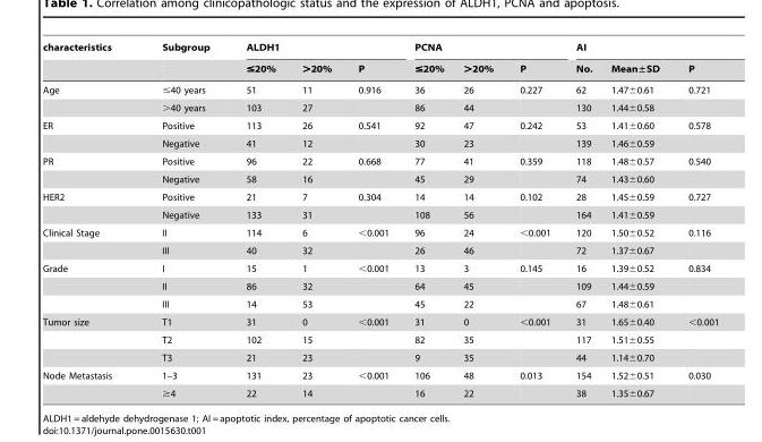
<table><thead><tr><td rowspan="2">characteristics</td><td rowspan="2">Subgroup</td><td colspan="3">ALDH1</td><td colspan="3">PCNA</td><td colspan="3">AI</td></tr><tr><td>≤20%</td><td>&gt;20%</td><td>P</td><td>≤20%</td><td>&gt;20%</td><td>P</td><td>No.</td><td>Mean±SD</td><td>P</td></tr></thead><tbody><tr><td rowspan="2">Age</td><td>≤40 years</td><td>51</td><td>11</td><td>0.916</td><td>36</td><td>26</td><td>0.227</td><td>62</td><td>1.47±0.61</td><td>0.721</td></tr><tr><td>&gt;40 years</td><td>103</td><td>27</td><td></td><td>86</td><td>44</td><td></td><td>130</td><td>1.44±0.58</td><td></td></tr><tr><td rowspan="2">ER</td><td>Positive</td><td>113</td><td>26</td><td>0.541</td><td>92</td><td>47</td><td>0.242</td><td>53</td><td>1.41±0.60</td><td>0.578</td></tr><tr><td>Negative</td><td>41</td><td>12</td><td></td><td>30</td><td>23</td><td></td><td>139</td><td>1.46±0.59</td><td></td></tr><tr><td rowspan="2">PR</td><td>Positive</td><td>96</td><td>22</td><td>0.668</td><td>77</td><td>41</td><td>0.359</td><td>118</td><td>1.48±0.57</td><td>0.540</td></tr><tr><td>Negative</td><td>58</td><td>16</td><td></td><td>45</td><td>29</td><td></td><td>74</td><td>1.43±0.60</td><td></td></tr><tr><td rowspan="2">HER2</td><td>Positive</td><td>21</td><td>7</td><td>0.304</td><td>14</td><td>14</td><td>0.102</td><td>28</td><td>1.45±0.59</td><td>0.727</td></tr><tr><td>Negative</td><td>133</td><td>31</td><td></td><td>108</td><td>56</td><td></td><td>164</td><td>1.41±0.59</td><td></td></tr><tr><td rowspan="2">Clinical Stage</td><td>II</td><td>114</td><td>6</td><td>&lt;0.001</td><td>96</td><td>24</td><td>&lt;0.001</td><td>120</td><td>1.50±0.52</td><td>0.116</td></tr><tr><td>III</td><td>40</td><td>32</td><td></td><td>26</td><td>46</td><td></td><td>72</td><td>1.37±0.67</td><td></td></tr><tr><td rowspan="3">Grade</td><td>I</td><td>15</td><td>1</td><td>&lt;0.001</td><td>13</td><td>3</td><td>0.145</td><td>16</td><td>1.39±0.52</td><td>0.834</td></tr><tr><td>II</td><td>86</td><td>32</td><td></td><td>64</td><td>45</td><td></td><td>109</td><td>1.44±0.59</td><td></td></tr><tr><td>III</td><td>14</td><td>53</td><td></td><td>45</td><td>22</td><td></td><td>67</td><td>1.48±0.61</td><td></td></tr><tr><td rowspan="3">Tumor size</td><td>T1</td><td>31</td><td>0</td><td>&lt;0.001</td><td>31</td><td>0</td><td>&lt;0.001</td><td>31</td><td>1.65±0.40</td><td>&lt;0.001</td></tr><tr><td>T2</td><td>102</td><td>15</td><td></td><td>82</td><td>35</td><td></td><td>117</td><td>1.51±0.55</td><td></td></tr><tr><td>T3</td><td>21</td><td>23</td><td></td><td>9</td><td>35</td><td></td><td>44</td><td>1.14±0.70</td><td></td></tr><tr><td rowspan="2">Node Metastasis</td><td>1–3</td><td>131</td><td>23</td><td>&lt;0.001</td><td>106</td><td>48</td><td>0.013</td><td>154</td><td>1.52±0.51</td><td>0.030</td></tr><tr><td>≥4</td><td>22</td><td>14</td><td></td><td>16</td><td>22</td><td></td><td>38</td><td>1.35±0.67</td><td></td></tr></tbody></table>